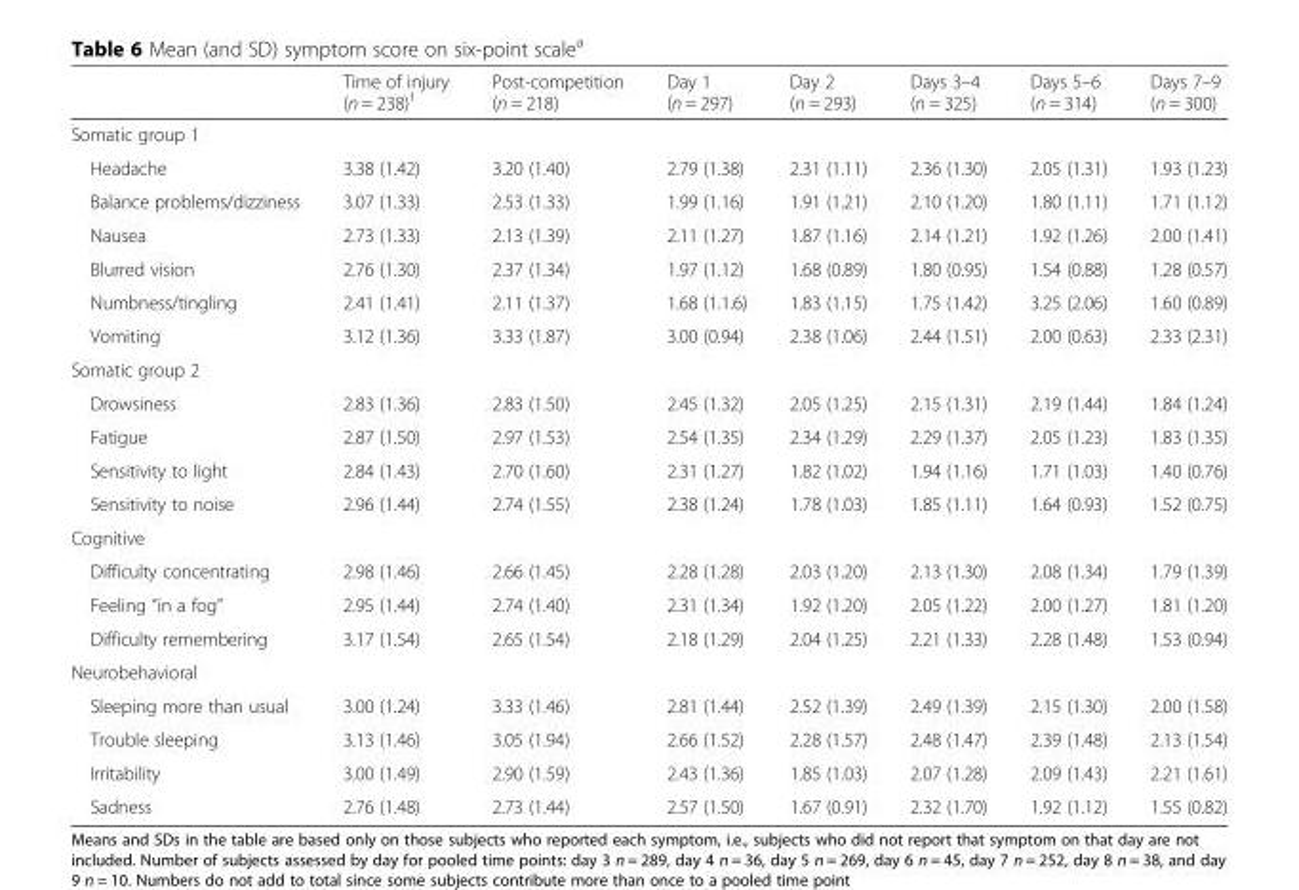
<table><thead><tr><td></td><td>Time of injury (n = 238)<sup>1</sup></td><td>Post-competition (n = 218)</td><td>Day 1 (n = 297)</td><td>Day 2 (n = 293)</td><td>Days 3–4 (n = 325)</td><td>Days 5–6 (n = 314)</td><td>Days 7–9 (n = 300)</td></tr></thead><tbody><tr><td colspan="8">Somatic group 1</td></tr><tr><td>Headache</td><td>3.38 (1.42)</td><td>3.20 (1.40)</td><td>2.79 (1.38)</td><td>2.31 (1.11)</td><td>2.36 (1.30)</td><td>2.05 (1.31)</td><td>1.93 (1.23)</td></tr><tr><td>Balance problems/dizziness</td><td>3.07 (1.33)</td><td>2.53 (1.33)</td><td>1.99 (1.16)</td><td>1.91 (1.21)</td><td>2.10 (1.20)</td><td>1.80 (1.11)</td><td>1.71 (1.12)</td></tr><tr><td>Nausea</td><td>2.73 (1.33)</td><td>2.13 (1.39)</td><td>2.11 (1.27)</td><td>1.87 (1.16)</td><td>2.14 (1.21)</td><td>1.92 (1.26)</td><td>2.00 (1.41)</td></tr><tr><td>Blurred vision</td><td>2.76 (1.30)</td><td>2.37 (1.34)</td><td>1.97 (1.12)</td><td>1.68 (0.89)</td><td>1.80 (0.95)</td><td>1.54 (0.88)</td><td>1.28 (0.57)</td></tr><tr><td>Numbness/tingling</td><td>2.41 (1.41)</td><td>2.11 (1.37)</td><td>1.68 (1.1.6)</td><td>1.83 (1.15)</td><td>1.75 (1.42)</td><td>3.25 (2.06)</td><td>1.60 (0.89)</td></tr><tr><td>Vomiting</td><td>3.12 (1.36)</td><td>3.33 (1.87)</td><td>3.00 (0.94)</td><td>2.38 (1.06)</td><td>2.44 (1.51)</td><td>2.00 (0.63)</td><td>2.33 (2.31)</td></tr><tr><td colspan="8">Somatic group 2</td></tr><tr><td>Drowsiness</td><td>2.83 (1.36)</td><td>2.83 (1.50)</td><td>2.45 (1.32)</td><td>2.05 (1.25)</td><td>2.15 (1.31)</td><td>2.19 (1.44)</td><td>1.84 (1.24)</td></tr><tr><td>Fatigue</td><td>2.87 (1.50)</td><td>2.97 (1.53)</td><td>2.54 (1.35)</td><td>2.34 (1.29)</td><td>2.29 (1.37)</td><td>2.05 (1.23)</td><td>1.83 (1.35)</td></tr><tr><td>Sensitivity to light</td><td>2.84 (1.43)</td><td>2.70 (1.60)</td><td>2.31 (1.27)</td><td>1.82 (1.02)</td><td>1.94 (1.16)</td><td>1.71 (1.03)</td><td>1.40 (0.76)</td></tr><tr><td>Sensitivity to noise</td><td>2.96 (1.44)</td><td>2.74 (1.55)</td><td>2.38 (1.24)</td><td>1.78 (1.03)</td><td>1.85 (1.11)</td><td>1.64 (0.93)</td><td>1.52 (0.75)</td></tr><tr><td colspan="8">Cognitive</td></tr><tr><td>Difficulty concentrating</td><td>2.98 (1.46)</td><td>2.66 (1.45)</td><td>2.28 (1.28)</td><td>2.03 (1.20)</td><td>2.13 (1.30)</td><td>2.08 (1.34)</td><td>1.79 (1.39)</td></tr><tr><td>Feeling “in a fog”</td><td>2.95 (1.44)</td><td>2.74 (1.40)</td><td>2.31 (1.34)</td><td>1.92 (1.20)</td><td>2.05 (1.22)</td><td>2.00 (1.27)</td><td>1.81 (1.20)</td></tr><tr><td>Difficulty remembering</td><td>3.17 (1.54)</td><td>2.65 (1.54)</td><td>2.18 (1.29)</td><td>2.04 (1.25)</td><td>2.21 (1.33)</td><td>2.28 (1.48)</td><td>1.53 (0.94)</td></tr><tr><td colspan="8">Neurobehavioral</td></tr><tr><td>Sleeping more than usual</td><td>3.00 (1.24)</td><td>3.33 (1.46)</td><td>2.81 (1.44)</td><td>2.52 (1.39)</td><td>2.49 (1.39)</td><td>2.15 (1.30)</td><td>2.00 (1.58)</td></tr><tr><td>Trouble sleeping</td><td>3.13 (1.46)</td><td>3.05 (1.94)</td><td>2.66 (1.52)</td><td>2.28 (1.57)</td><td>2.48 (1.47)</td><td>2.39 (1.48)</td><td>2.13 (1.54)</td></tr><tr><td>Irritability</td><td>3.00 (1.49)</td><td>2.90 (1.59)</td><td>2.43 (1.36)</td><td>1.85 (1.03)</td><td>2.07 (1.28)</td><td>2.09 (1.43)</td><td>2.21 (1.61)</td></tr><tr><td>Sadness</td><td>2.76 (1.48)</td><td>2.73 (1.44)</td><td>2.57 (1.50)</td><td>1.67 (0.91)</td><td>2.32 (1.70)</td><td>1.92 (1.12)</td><td>1.55 (0.82)</td></tr></tbody></table>